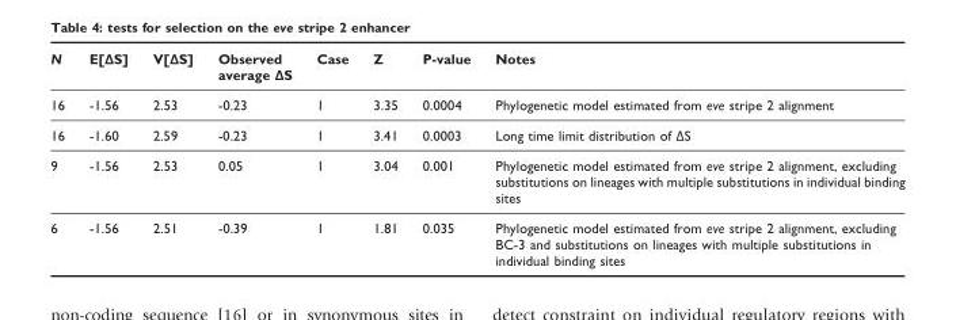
<table><thead><tr><td>N</td><td>E[ΔS]</td><td>V[ΔS]</td><td>Observed average ΔS</td><td>Case</td><td>Z</td><td>P-value</td><td>Notes</td></tr></thead><tbody><tr><td>16</td><td>-1.56</td><td>2.53</td><td>-0.23</td><td>1</td><td>3.35</td><td>0.0004</td><td>Phylogenetic model estimated from eve stripe 2 alignment</td></tr><tr><td>16</td><td>-1.60</td><td>2.59</td><td>-0.23</td><td>1</td><td>3.41</td><td>0.0003</td><td>Long time limit distribution of ΔS</td></tr><tr><td>9</td><td>-1.56</td><td>2.53</td><td>0.05</td><td>1</td><td>3.04</td><td>0.001</td><td>Phylogenetic model estimated from eve stripe 2 alignment, excluding substitutions on lineages with multiple substitutions in individual binding sites</td></tr><tr><td>6</td><td>-1.56</td><td>2.51</td><td>-0.39</td><td>1</td><td>1.81</td><td>0.035</td><td>Phylogenetic model estimated from eve stripe 2 alignment, excluding BC-3 and substitutions on lineages with multiple substitutions in individual binding sites</td></tr></tbody></table>